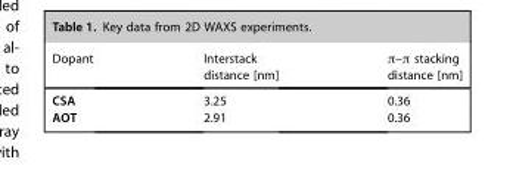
<table><thead><tr><td>Dopant</td><td>Interstack distance [nm]</td><td>π–π stacking distance [nm]</td></tr></thead><tbody><tr><td>CSA</td><td>3.25</td><td>0.36</td></tr><tr><td>AOT</td><td>2.91</td><td>0.36</td></tr></tbody></table>